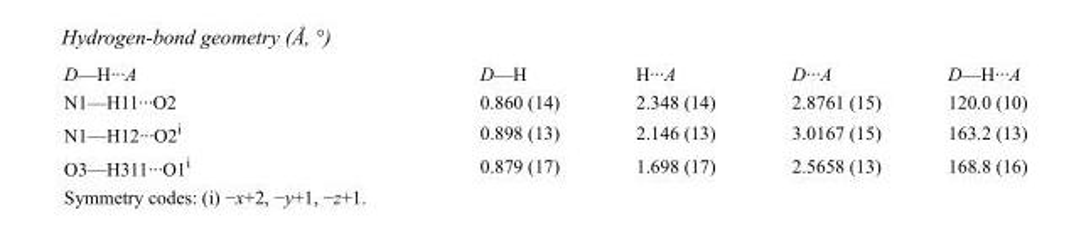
<table><tbody><tr><td>D—H···A</td><td>D—H</td><td>H···A</td><td>D···A</td><td>D—H···A</td></tr><tr><td>N1—H11···O2</td><td>0.860 (14)</td><td>2.348 (14)</td><td>2.8761 (15)</td><td>120.0 (10)</td></tr><tr><td>N1—H12···O2<sup>i</sup></td><td>0.898 (13)</td><td>2.146 (13)</td><td>3.0167 (15)</td><td>163.2 (13)</td></tr><tr><td>O3—H311···O1<sup>i</sup></td><td>0.879 (17)</td><td>1.698 (17)</td><td>2.5658 (13)</td><td>168.8 (16)</td></tr></tbody></table>